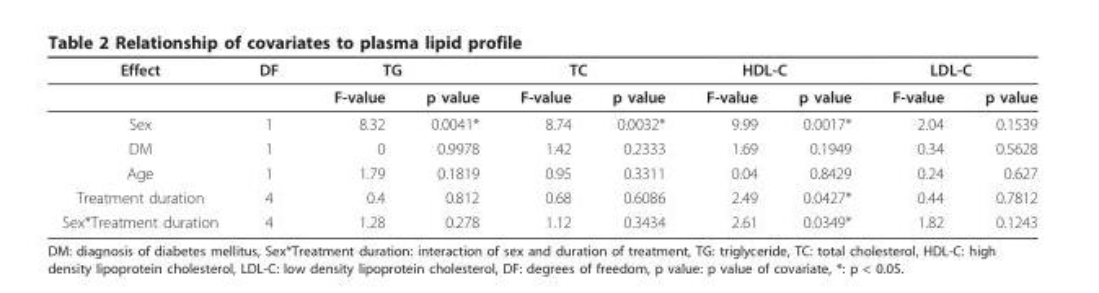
<table><tbody><tr><td rowspan="2">Effect</td><td>DF</td><td colspan="2">TG</td><td colspan="2">TC</td><td colspan="2">HDL-C</td><td colspan="2">LDL-C</td></tr><tr><td></td><td>F-value</td><td>p value</td><td>F-value</td><td>p value</td><td>F-value</td><td>p value</td><td>F-value</td><td>p value</td></tr><tr><td>Sex</td><td>1</td><td>8.32</td><td>0.0041*</td><td>8.74</td><td>0.0032*</td><td>9.99</td><td>0.0017*</td><td>2.04</td><td>0.1539</td></tr><tr><td>DM</td><td>1</td><td>0</td><td>0.9978</td><td>1.42</td><td>0.2333</td><td>1.69</td><td>0.1949</td><td>0.34</td><td>0.5628</td></tr><tr><td>Age</td><td>1</td><td>1.79</td><td>0.1819</td><td>0.95</td><td>0.3311</td><td>0.04</td><td>0.8429</td><td>0.24</td><td>0.627</td></tr><tr><td>Treatment duration</td><td>4</td><td>0.4</td><td>0.812</td><td>0.68</td><td>0.6086</td><td>2.49</td><td>0.0427*</td><td>0.44</td><td>0.7812</td></tr><tr><td>Sex*Treatment duration</td><td>4</td><td>1.28</td><td>0.278</td><td>1.12</td><td>0.3434</td><td>2.61</td><td>0.0349*</td><td>1.82</td><td>0.1243</td></tr></tbody></table>